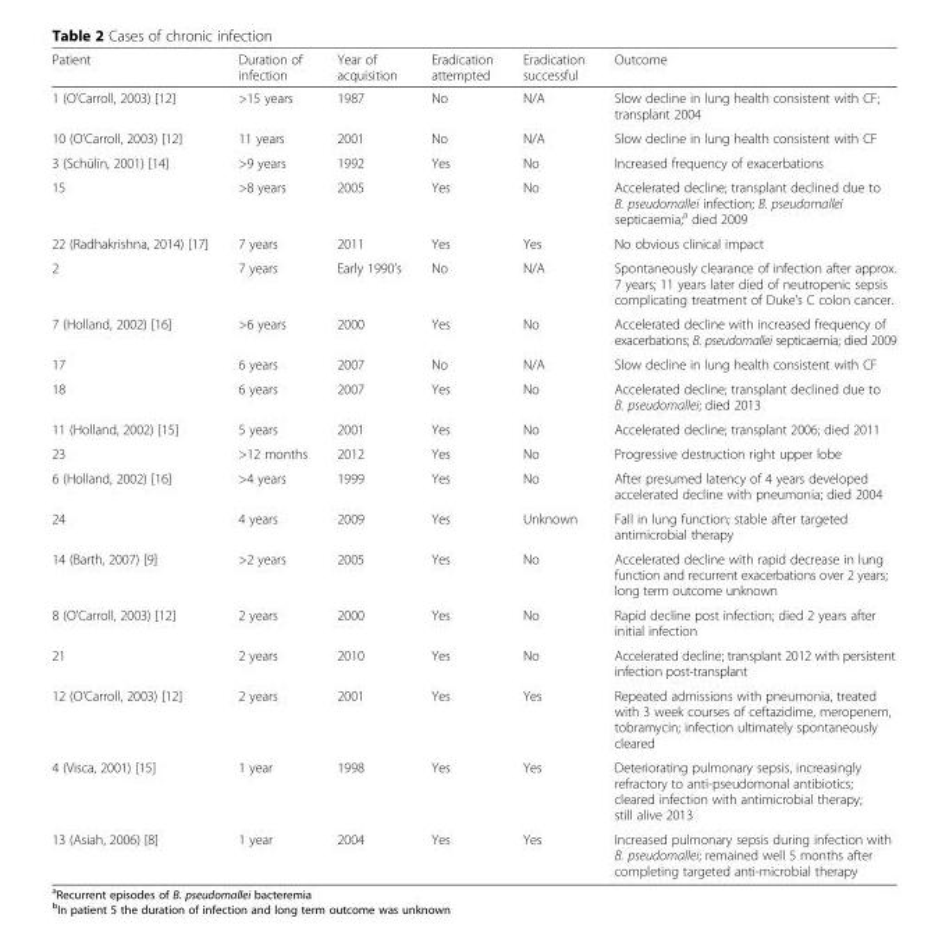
<table><thead><tr><td>Patient</td><td>Duration of infection</td><td>Year of acquisition</td><td>Eradication attempted</td><td>Eradication successful</td><td>Outcome</td></tr></thead><tbody><tr><td>1 (O’Carroll, 2003) [12]</td><td>&gt;15 years</td><td>1987</td><td>No</td><td>N/A</td><td>Slow decline in lung health consistent with CF; transplant 2004</td></tr><tr><td>10 (O’Carroll, 2003) [12]</td><td>11 years</td><td>2001</td><td>No</td><td>N/A</td><td>Slow decline in lung health consistent with CF</td></tr><tr><td>3 (Schülin, 2001) [14]</td><td>&gt;9 years</td><td>1992</td><td>Yes</td><td>No</td><td>Increased frequency of exacerbations</td></tr><tr><td>15</td><td>&gt;8 years</td><td>2005</td><td>Yes</td><td>No</td><td>Accelerated decline; transplant declined due to B. pseudomallei infection; B. pseudomallei septicaemia;<sup>a</sup> died 2009</td></tr><tr><td>22 (Radhakrishna, 2014) [17]</td><td>7 years</td><td>2011</td><td>Yes</td><td>Yes</td><td>No obvious clinical impact</td></tr><tr><td>2</td><td>7 years</td><td>Early 1990’s</td><td>No</td><td>N/A</td><td>Spontaneously clearance of infection after approx. 7 years; 11 years later died of neutropenic sepsis complicating treatment of Duke’s C colon cancer.</td></tr><tr><td>7 (Holland, 2002) [16]</td><td>&gt;6 years</td><td>2000</td><td>Yes</td><td>No</td><td>Accelerated decline with increased frequency of exacerbations; B. pseudomallei septicaemia; died 2009</td></tr><tr><td>17</td><td>6 years</td><td>2007</td><td>No</td><td>N/A</td><td>Slow decline in lung health consistent with CF</td></tr><tr><td>18</td><td>6 years</td><td>2007</td><td>Yes</td><td>No</td><td>Accelerated decline; transplant declined due to B. pseudomallei; died 2013</td></tr><tr><td>11 (Holland, 2002) [15]</td><td>5 years</td><td>2001</td><td>Yes</td><td>No</td><td>Accelerated decline; transplant 2006; died 2011</td></tr><tr><td>23</td><td>&gt;12 months</td><td>2012</td><td>Yes</td><td>No</td><td>Progressive destruction right upper lobe</td></tr><tr><td>6 (Holland, 2002) [16]</td><td>&gt;4 years</td><td>1999</td><td>Yes</td><td>No</td><td>After presumed latency of 4 years developed accelerated decline with pneumonia; died 2004</td></tr><tr><td>24</td><td>4 years</td><td>2009</td><td>Yes</td><td>Unknown</td><td>Fall in lung function; stable after targeted antimicrobial therapy</td></tr><tr><td>14 (Barth, 2007) [9]</td><td>&gt;2 years</td><td>2005</td><td>Yes</td><td>No</td><td>Accelerated decline with rapid decrease in lung function and recurrent exacerbations over 2 years; long term outcome unknown</td></tr><tr><td>8 (O’Carroll, 2003) [12]</td><td>2 years</td><td>2000</td><td>Yes</td><td>No</td><td>Rapid decline post infection; died 2 years after initial infection</td></tr><tr><td>21</td><td>2 years</td><td>2010</td><td>Yes</td><td>No</td><td>Accelerated decline; transplant 2012 with persistent infection post-transplant</td></tr><tr><td>12 (O’Carroll, 2003) [12]</td><td>2 years</td><td>2001</td><td>Yes</td><td>Yes</td><td>Repeated admissions with pneumonia, treated with 3 week courses of ceftazidime, meropenem, tobramycin; infection ultimately spontaneously cleared</td></tr><tr><td>4 (Visca, 2001) [15]</td><td>1 year</td><td>1998</td><td>Yes</td><td>Yes</td><td>Deteriorating pulmonary sepsis, increasingly refractory to anti-pseudomonal antibiotics; cleared infection with antimicrobial therapy; still alive 2013</td></tr><tr><td>13 (Asiah, 2006) [8]</td><td>1 year</td><td>2004</td><td>Yes</td><td>Yes</td><td>Increased pulmonary sepsis during infection with B. pseudomallei; remained well 5 months after completing targeted anti-microbial therapy</td></tr></tbody></table>